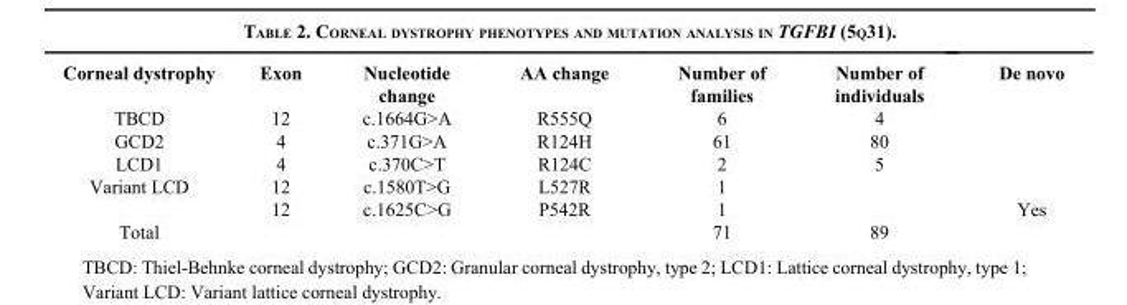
<table><thead><tr><td>Corneal dystrophy</td><td>Exon</td><td>Nucleotide change</td><td>AA change</td><td>Number of families</td><td>Number of individuals</td><td>De novo</td></tr></thead><tbody><tr><td>TBCD</td><td>12</td><td>c.1664G&gt;A</td><td>R555Q</td><td>6</td><td>4</td><td></td></tr><tr><td>GCD2</td><td>4</td><td>c.371G&gt;A</td><td>R124H</td><td>61</td><td>80</td><td></td></tr><tr><td>LCD1</td><td>4</td><td>c.370C&gt;T</td><td>R124C</td><td>2</td><td>5</td><td></td></tr><tr><td rowspan="2">Variant LCD</td><td>12</td><td>c.1580T&gt;G</td><td>L527R</td><td>1</td><td></td><td></td></tr><tr><td>12</td><td>c.1625C&gt;G</td><td>P542R</td><td>1</td><td></td><td>Yes</td></tr><tr><td>Total</td><td></td><td></td><td></td><td>71</td><td>89</td><td></td></tr></tbody></table>